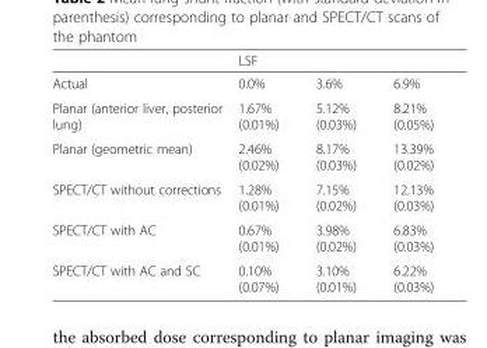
<table><thead><tr><td rowspan="2">Actual</td><td colspan="3">LSF</td></tr><tr><td>0.0%</td><td>3.6%</td><td>6.9%</td></tr></thead><tbody><tr><td>Planar (anterior liver, posterior lung)</td><td>1.67% (0.01%)</td><td>5.12% (0.03%)</td><td>8.21% (0.05%)</td></tr><tr><td>Planar (geometric mean)</td><td>2.46% (0.02%)</td><td>8.17% (0.03%)</td><td>13.39% (0.02%)</td></tr><tr><td>SPECT/CT without corrections</td><td>1.28% (0.01%)</td><td>7.15% (0.02%)</td><td>12.13% (0.03%)</td></tr><tr><td>SPECT/CT with AC</td><td>0.67% (0.01%)</td><td>3.98% (0.02%)</td><td>6.83% (0.03%)</td></tr><tr><td>SPECT/CT with AC and SC</td><td>0.10% (0.07%)</td><td>3.10% (0.01%)</td><td>6.22% (0.03%)</td></tr></tbody></table>